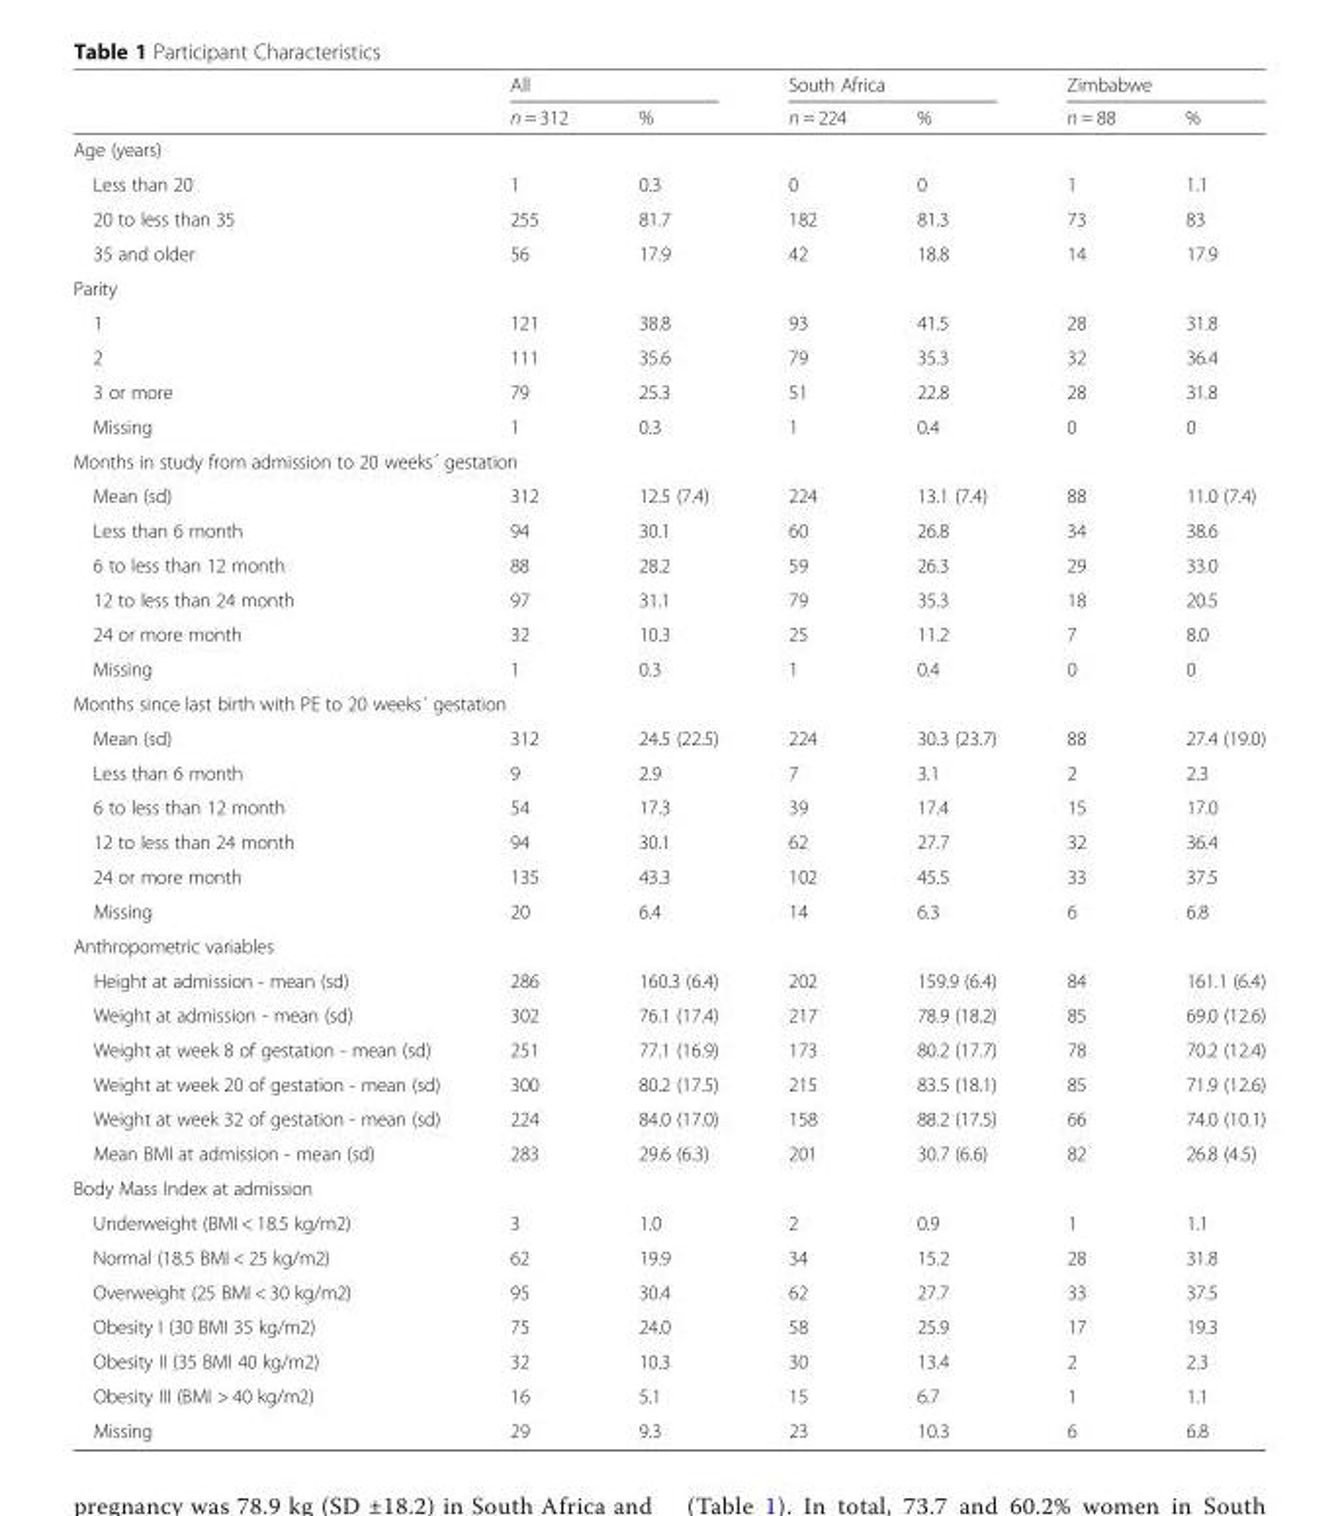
<table><thead><tr><td rowspan="2"></td><td colspan="2">All</td><td colspan="2">South Africa</td><td colspan="2">Zimbabwe</td></tr><tr><td>n = 312</td><td>%</td><td>n = 224</td><td>%</td><td>n = 88</td><td>%</td></tr></thead><tbody><tr><td colspan="7">Age (years)</td></tr><tr><td>Less than 20</td><td>1</td><td>0.3</td><td>0</td><td>0</td><td>1</td><td>1.1</td></tr><tr><td>20 to less than 35</td><td>255</td><td>81.7</td><td>182</td><td>81.3</td><td>73</td><td>83</td></tr><tr><td>35 and older</td><td>56</td><td>17.9</td><td>42</td><td>18.8</td><td>14</td><td>17.9</td></tr><tr><td colspan="7">Parity</td></tr><tr><td>1</td><td>121</td><td>38.8</td><td>93</td><td>41.5</td><td>28</td><td>31.8</td></tr><tr><td>2</td><td>111</td><td>35.6</td><td>79</td><td>35.3</td><td>32</td><td>36.4</td></tr><tr><td>3 or more</td><td>79</td><td>25.3</td><td>51</td><td>22.8</td><td>28</td><td>31.8</td></tr><tr><td>Missing</td><td>1</td><td>0.3</td><td>1</td><td>0.4</td><td>0</td><td>0</td></tr><tr><td colspan="7">Months in study from admission to 20 weeks´ gestation</td></tr><tr><td>Mean (sd)</td><td>312</td><td>12.5 (7.4)</td><td>224</td><td>13.1 (7.4)</td><td>88</td><td>11.0 (7.4)</td></tr><tr><td>Less than 6 month</td><td>94</td><td>30.1</td><td>60</td><td>26.8</td><td>34</td><td>38.6</td></tr><tr><td>6 to less than 12 month</td><td>88</td><td>28.2</td><td>59</td><td>26.3</td><td>29</td><td>33.0</td></tr><tr><td>12 to less than 24 month</td><td>97</td><td>31.1</td><td>79</td><td>35.3</td><td>18</td><td>20.5</td></tr><tr><td>24 or more month</td><td>32</td><td>10.3</td><td>25</td><td>11.2</td><td>7</td><td>8.0</td></tr><tr><td>Missing</td><td>1</td><td>0.3</td><td>1</td><td>0.4</td><td>0</td><td>0</td></tr><tr><td colspan="7">Months since last birth with PE to 20 weeks´ gestation</td></tr><tr><td>Mean (sd)</td><td>312</td><td>24.5 (22.5)</td><td>224</td><td>30.3 (23.7)</td><td>88</td><td>27.4 (19.0)</td></tr><tr><td>Less than 6 month</td><td>9</td><td>2.9</td><td>7</td><td>3.1</td><td>2</td><td>2.3</td></tr><tr><td>6 to less than 12 month</td><td>54</td><td>17.3</td><td>39</td><td>17.4</td><td>15</td><td>17.0</td></tr><tr><td>12 to less than 24 month</td><td>94</td><td>30.1</td><td>62</td><td>27.7</td><td>32</td><td>36.4</td></tr><tr><td>24 or more month</td><td>135</td><td>43.3</td><td>102</td><td>45.5</td><td>33</td><td>37.5</td></tr><tr><td>Missing</td><td>20</td><td>6.4</td><td>14</td><td>6.3</td><td>6</td><td>6.8</td></tr><tr><td colspan="7">Anthropometric variables</td></tr><tr><td>Height at admission - mean (sd)</td><td>286</td><td>160.3 (6.4)</td><td>202</td><td>159.9 (6.4)</td><td>84</td><td>161.1 (6.4)</td></tr><tr><td>Weight at admission - mean (sd)</td><td>302</td><td>76.1 (17.4)</td><td>217</td><td>78.9 (18.2)</td><td>85</td><td>69.0 (12.6)</td></tr><tr><td>Weight at week 8 of gestation - mean (sd)</td><td>251</td><td>77.1 (16.9)</td><td>173</td><td>80.2 (17.7)</td><td>78</td><td>70.2 (12.4)</td></tr><tr><td>Weight at week 20 of gestation - mean (sd)</td><td>300</td><td>80.2 (17.5)</td><td>215</td><td>83.5 (18.1)</td><td>85</td><td>71.9 (12.6)</td></tr><tr><td>Weight at week 32 of gestation - mean (sd)</td><td>224</td><td>84.0 (17.0)</td><td>158</td><td>88.2 (17.5)</td><td>66</td><td>74.0 (10.1)</td></tr><tr><td>Mean BMI at admission - mean (sd)</td><td>283</td><td>29.6 (6.3)</td><td>201</td><td>30.7 (6.6)</td><td>82</td><td>26.8 (4.5)</td></tr><tr><td colspan="7">Body Mass Index at admission</td></tr><tr><td>Underweight (BMI &lt; 18.5 kg/m2)</td><td>3</td><td>1.0</td><td>2</td><td>0.9</td><td>1</td><td>1.1</td></tr><tr><td>Normal (18.5 BMI &lt; 25 kg/m2)</td><td>62</td><td>19.9</td><td>34</td><td>15.2</td><td>28</td><td>31.8</td></tr><tr><td>Overweight (25 BMI &lt; 30 kg/m2)</td><td>95</td><td>30.4</td><td>62</td><td>27.7</td><td>33</td><td>37.5</td></tr><tr><td>Obesity I (30 BMI 35 kg/m2)</td><td>75</td><td>24.0</td><td>58</td><td>25.9</td><td>17</td><td>19.3</td></tr><tr><td>Obesity II (35 BMI 40 kg/m2)</td><td>32</td><td>10.3</td><td>30</td><td>13.4</td><td>2</td><td>2.3</td></tr><tr><td>Obesity III (BMI &gt; 40 kg/m2)</td><td>16</td><td>5.1</td><td>15</td><td>6.7</td><td>1</td><td>1.1</td></tr><tr><td>Missing</td><td>29</td><td>9.3</td><td>23</td><td>10.3</td><td>6</td><td>6.8</td></tr></tbody></table>